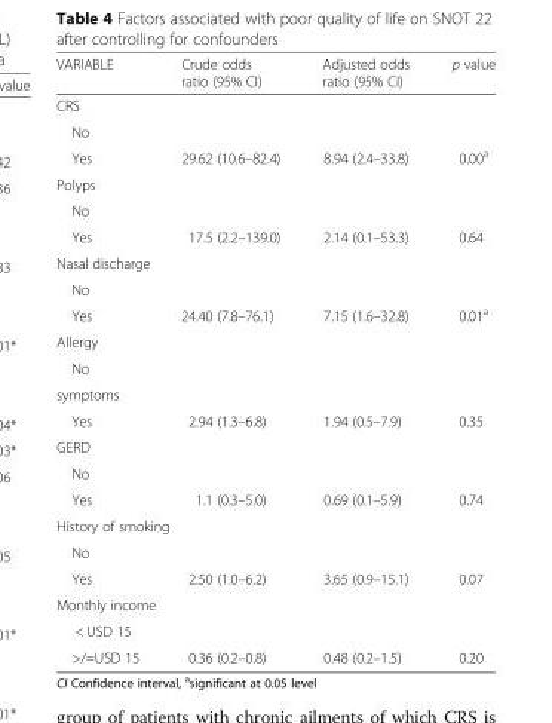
<table><thead><tr><td>VARIABLE</td><td>Crude odds ratio (95% CI)</td><td>Adjusted odds ratio (95% CI)</td><td>p value</td></tr></thead><tbody><tr><td colspan="4">CRS</td></tr><tr><td colspan="4">No</td></tr><tr><td>Yes</td><td>29.62 (10.6–82.4)</td><td>8.94 (2.4–33.8)</td><td>0.00<sup>a</sup></td></tr><tr><td colspan="4">Polyps</td></tr><tr><td colspan="4">No</td></tr><tr><td>Yes</td><td>17.5 (2.2–139.0)</td><td>2.14 (0.1–53.3)</td><td>0.64</td></tr><tr><td colspan="4">Nasal discharge</td></tr><tr><td colspan="4">No</td></tr><tr><td>Yes</td><td>24.40 (7.8–76.1)</td><td>7.15 (1.6–32.8)</td><td>0.01<sup>a</sup></td></tr><tr><td colspan="4">Allergy</td></tr><tr><td colspan="4">No</td></tr><tr><td colspan="4">symptoms</td></tr><tr><td>Yes</td><td>2.94 (1.3–6.8)</td><td>1.94 (0.5–7.9)</td><td>0.35</td></tr><tr><td colspan="4">GERD</td></tr><tr><td colspan="4">No</td></tr><tr><td>Yes</td><td>1.1 (0.3–5.0)</td><td>0.69 (0.1–5.9)</td><td>0.74</td></tr><tr><td colspan="4">History of smoking</td></tr><tr><td colspan="4">No</td></tr><tr><td>Yes</td><td>2.50 (1.0–6.2)</td><td>3.65 (0.9–15.1)</td><td>0.07</td></tr><tr><td colspan="4">Monthly income</td></tr><tr><td colspan="4">&lt; USD 15</td></tr><tr><td>&gt;/=USD 15</td><td>0.36 (0.2–0.8)</td><td>0.48 (0.2–1.5)</td><td>0.20</td></tr></tbody></table>